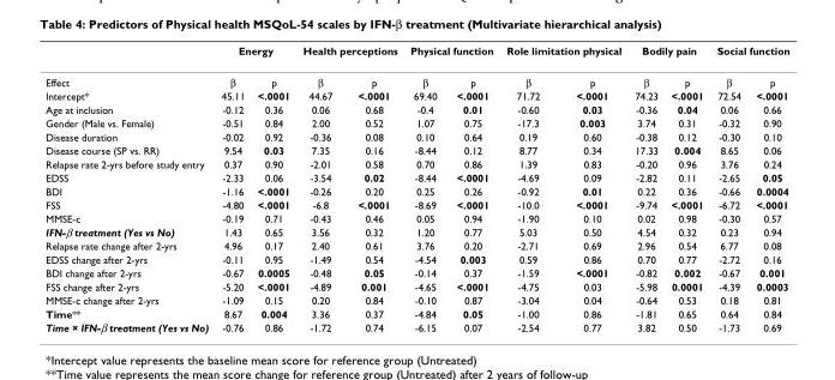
<table><thead><tr><td rowspan="2">Effect</td><td colspan="2">Energy</td><td colspan="2">Health perceptions</td><td colspan="2">Physical function</td><td colspan="2">Role limitation physical</td><td colspan="2">Bodily pain</td><td colspan="2">Social function</td></tr><tr><td>β</td><td>p</td><td>β</td><td>p</td><td>β</td><td>p</td><td>β</td><td>p</td><td>β</td><td>p</td><td>β</td><td>p</td></tr></thead><tbody><tr><td>Intercept*</td><td>45.11</td><td>&lt;.0001</td><td>44.67</td><td>&lt;.0001</td><td>69.40</td><td>&lt;.0001</td><td>71.72</td><td>&lt;.0001</td><td>74.23</td><td>&lt;.0001</td><td>72.54</td><td>&lt;.0001</td></tr><tr><td>Age at inclusion</td><td>-0.12</td><td>0.36</td><td>0.06</td><td>0.68</td><td>-0.4</td><td>0.01</td><td>-0.60</td><td>0.03</td><td>-0.36</td><td>0.04</td><td>0.06</td><td>0.66</td></tr><tr><td>Gender (Male vs. Female)</td><td>-0.51</td><td>0.84</td><td>2.00</td><td>0.52</td><td>1.07</td><td>0.75</td><td>-17.3</td><td>0.003</td><td>3.74</td><td>0.31</td><td>-0.32</td><td>0.90</td></tr><tr><td>Disease duration</td><td>-0.02</td><td>0.92</td><td>-0.36</td><td>0.08</td><td>0.10</td><td>0.64</td><td>0.19</td><td>0.60</td><td>-0.38</td><td>0.12</td><td>-0.30</td><td>0.10</td></tr><tr><td>Disease course (SP vs. RR)</td><td>9.54</td><td>0.03</td><td>7.35</td><td>0.16</td><td>-8.44</td><td>0.12</td><td>8.77</td><td>0.34</td><td>17.33</td><td>0.004</td><td>8.65</td><td>0.06</td></tr><tr><td>Relapse rate 2-yrs before study entry</td><td>0.37</td><td>0.90</td><td>-2.01</td><td>0.58</td><td>0.70</td><td>0.86</td><td>1.39</td><td>0.83</td><td>-0.20</td><td>0.96</td><td>3.76</td><td>0.24</td></tr><tr><td>EDSS</td><td>-2.33</td><td>0.06</td><td>-3.54</td><td>0.02</td><td>-8.44</td><td>&lt;.0001</td><td>-4.69</td><td>0.09</td><td>-2.82</td><td>0.11</td><td>-2.65</td><td>0.05</td></tr><tr><td>BDI</td><td>-1.16</td><td>&lt;.0001</td><td>-0.26</td><td>0.20</td><td>0.25</td><td>0.26</td><td>-0.92</td><td>0.01</td><td>0.22</td><td>0.36</td><td>-0.66</td><td>0.0004</td></tr><tr><td>FSS</td><td>-4.80</td><td>&lt;.0001</td><td>-6.8</td><td>&lt;.0001</td><td>-8.69</td><td>&lt;.0001</td><td>-10.0</td><td>&lt;.0001</td><td>-9.74</td><td>&lt;.0001</td><td>-6.72</td><td>&lt;.0001</td></tr><tr><td>MMSE-c</td><td>-0.19</td><td>0.71</td><td>-0.43</td><td>0.46</td><td>0.05</td><td>0.94</td><td>-1.90</td><td>0.10</td><td>0.02</td><td>0.98</td><td>-0.30</td><td>0.57</td></tr><tr><td>IFN-β treatment (Yes vs No)</td><td>1.43</td><td>0.65</td><td>3.56</td><td>0.32</td><td>1.20</td><td>0.77</td><td>5.03</td><td>0.50</td><td>4.54</td><td>0.32</td><td>0.23</td><td>0.94</td></tr><tr><td>Relapse rate change after 2-yrs</td><td>4.96</td><td>0.17</td><td>2.40</td><td>0.61</td><td>3.76</td><td>0.20</td><td>-2.71</td><td>0.69</td><td>2.96</td><td>0.54</td><td>6.77</td><td>0.08</td></tr><tr><td>EDSS change after 2-yrs</td><td>-0.11</td><td>0.95</td><td>-1.49</td><td>0.54</td><td>-4.54</td><td>0.003</td><td>0.59</td><td>0.86</td><td>0.70</td><td>0.77</td><td>-2.72</td><td>0.16</td></tr><tr><td>BDI change after 2-yrs</td><td>-0.67</td><td>0.0005</td><td>-0.48</td><td>0.05</td><td>-0.14</td><td>0.37</td><td>-1.59</td><td>&lt;.0001</td><td>-0.82</td><td>0.002</td><td>-0.67</td><td>0.001</td></tr><tr><td>FSS change after 2-yrs</td><td>-5.20</td><td>&lt;.0001</td><td>-4.89</td><td>0.001</td><td>-4.65</td><td>&lt;.0001</td><td>-4.75</td><td>0.03</td><td>-5.98</td><td>0.0001</td><td>-4.39</td><td>0.0003</td></tr><tr><td>MMSE-c change after 2-yrs</td><td>-1.09</td><td>0.15</td><td>0.20</td><td>0.84</td><td>-0.10</td><td>0.87</td><td>-3.04</td><td>0.04</td><td>-0.64</td><td>0.53</td><td>0.18</td><td>0.81</td></tr><tr><td>Time**</td><td>8.67</td><td>0.004</td><td>3.36</td><td>0.37</td><td>-4.84</td><td>0.05</td><td>-1.00</td><td>0.86</td><td>-1.81</td><td>0.65</td><td>0.64</td><td>0.84</td></tr><tr><td>Time × IFN-β treatment (Yes vs No)</td><td>-0.76</td><td>0.86</td><td>-1.72</td><td>0.74</td><td>-6.15</td><td>0.07</td><td>-2.54</td><td>0.77</td><td>3.82</td><td>0.50</td><td>-1.73</td><td>0.69</td></tr></tbody></table>